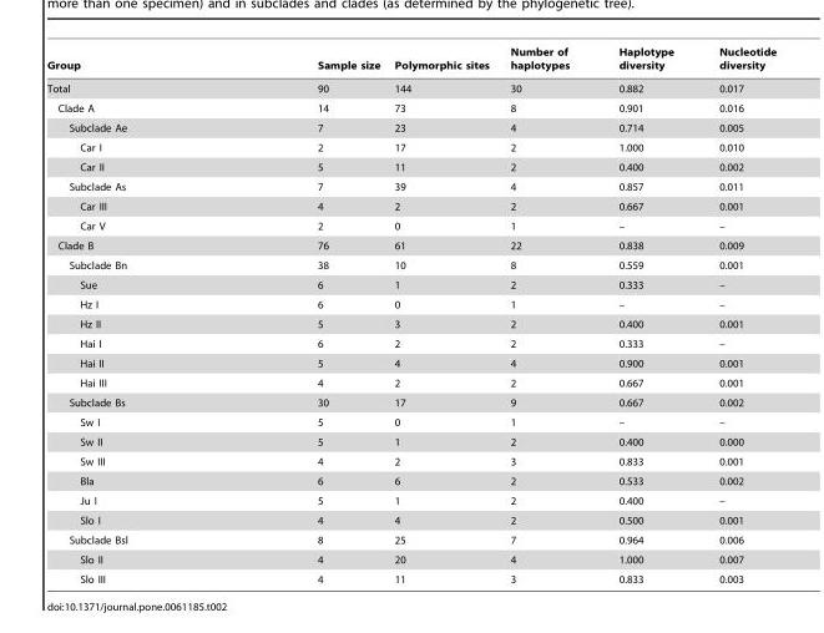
<table><thead><tr><td>Group</td><td>Sample size</td><td>Polymorphic sites</td><td>Number of haplotypes</td><td>Haplotype diversity</td><td>Nucleotide diversity</td></tr></thead><tbody><tr><td>Total</td><td>90</td><td>144</td><td>30</td><td>0.882</td><td>0.017</td></tr><tr><td>Clade A</td><td>14</td><td>73</td><td>8</td><td>0.901</td><td>0.016</td></tr><tr><td>Subclade Ae</td><td>7</td><td>23</td><td>4</td><td>0.714</td><td>0.005</td></tr><tr><td>Car I</td><td>2</td><td>17</td><td>2</td><td>1.000</td><td>0.010</td></tr><tr><td>Car II</td><td>5</td><td>11</td><td>2</td><td>0.400</td><td>0.002</td></tr><tr><td>Subclade As</td><td>7</td><td>39</td><td>4</td><td>0.857</td><td>0.011</td></tr><tr><td>Car III</td><td>4</td><td>2</td><td>2</td><td>0.667</td><td>0.001</td></tr><tr><td>Car V</td><td>2</td><td>0</td><td>1</td><td>–</td><td>–</td></tr><tr><td>Clade B</td><td>76</td><td>61</td><td>22</td><td>0.838</td><td>0.009</td></tr><tr><td>Subclade Bn</td><td>38</td><td>10</td><td>8</td><td>0.559</td><td>0.001</td></tr><tr><td>Sue</td><td>6</td><td>1</td><td>2</td><td>0.333</td><td>–</td></tr><tr><td>Hz I</td><td>6</td><td>0</td><td>1</td><td>–</td><td>–</td></tr><tr><td>Hz II</td><td>5</td><td>3</td><td>2</td><td>0.400</td><td>0.001</td></tr><tr><td>Hai I</td><td>6</td><td>2</td><td>2</td><td>0.333</td><td>–</td></tr><tr><td>Hai II</td><td>5</td><td>4</td><td>4</td><td>0.900</td><td>0.001</td></tr><tr><td>Hai III</td><td>4</td><td>2</td><td>2</td><td>0.667</td><td>0.001</td></tr><tr><td>Subclade Bs</td><td>30</td><td>17</td><td>9</td><td>0.667</td><td>0.002</td></tr><tr><td>Sw I</td><td>5</td><td>0</td><td>1</td><td>–</td><td>–</td></tr><tr><td>Sw II</td><td>5</td><td>1</td><td>2</td><td>0.400</td><td>0.000</td></tr><tr><td>Sw III</td><td>4</td><td>2</td><td>3</td><td>0.833</td><td>0.001</td></tr><tr><td>Bla</td><td>6</td><td>6</td><td>2</td><td>0.533</td><td>0.002</td></tr><tr><td>Ju I</td><td>5</td><td>1</td><td>2</td><td>0.400</td><td>–</td></tr><tr><td>Slo I</td><td>4</td><td>4</td><td>2</td><td>0.500</td><td>0.001</td></tr><tr><td>Subclade Bsl</td><td>8</td><td>25</td><td>7</td><td>0.964</td><td>0.006</td></tr><tr><td>Slo II</td><td>4</td><td>20</td><td>4</td><td>1.000</td><td>0.007</td></tr><tr><td>Slo III</td><td>4</td><td>11</td><td>3</td><td>0.833</td><td>0.003</td></tr></tbody></table>